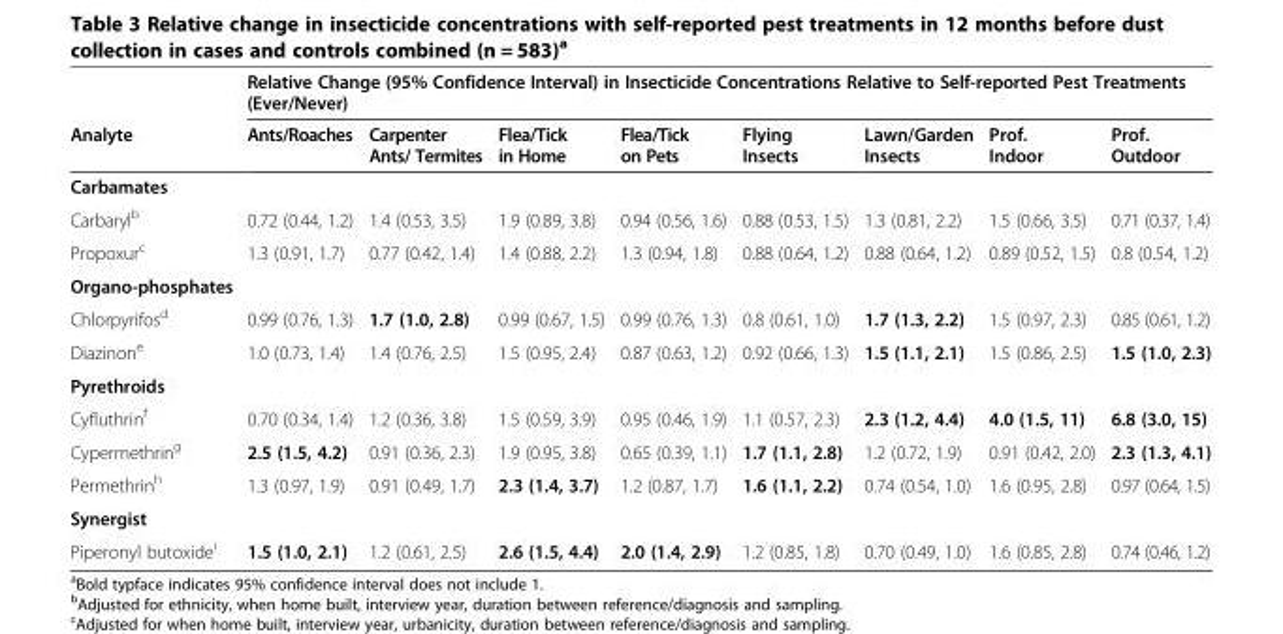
<table><thead><tr><td rowspan="2">Analyte</td><td colspan="8">Relative Change (95% Confidence Interval) in Insecticide Concentrations Relative to Self-reported Pest Treatments (Ever/Never)</td></tr><tr><td>Ants/Roaches</td><td>Carpenter Ants/ Termites</td><td>Flea/Tick in Home</td><td>Flea/Tick on Pets</td><td>Flying Insects</td><td>Lawn/Garden Insects</td><td>Prof. Indoor</td><td>Prof. Outdoor</td></tr></thead><tbody><tr><td colspan="9">Carbamates</td></tr><tr><td>Carbaryl<sup>b</sup></td><td>0.72 (0.44, 1.2)</td><td>1.4 (0.53, 3.5)</td><td>1.9 (0.89, 3.8)</td><td>0.94 (0.56, 1.6)</td><td>0.88 (0.53, 1.5)</td><td>1.3 (0.81, 2.2)</td><td>1.5 (0.66, 3.5)</td><td>0.71 (0.37, 1.4)</td></tr><tr><td>Propoxur<sup>c</sup></td><td>1.3 (0.91, 1.7)</td><td>0.77 (0.42, 1.4)</td><td>1.4 (0.88, 2.2)</td><td>1.3 (0.94, 1.8)</td><td>0.88 (0.64, 1.2)</td><td>0.88 (0.64, 1.2)</td><td>0.89 (0.52, 1.5)</td><td>0.8 (0.54, 1.2)</td></tr><tr><td colspan="9">Organo-phosphates</td></tr><tr><td>Chlorpyrifos<sup>d</sup></td><td>0.99 (0.76, 1.3)</td><td>1.7 (1.0, 2.8)</td><td>0.99 (0.67, 1.5)</td><td>0.99 (0.76, 1.3)</td><td>0.8 (0.61, 1.0)</td><td>1.7 (1.3, 2.2)</td><td>1.5 (0.97, 2.3)</td><td>0.85 (0.61, 1.2)</td></tr><tr><td>Diazinon<sup>e</sup></td><td>1.0 (0.73, 1.4)</td><td>1.4 (0.76, 2.5)</td><td>1.5 (0.95, 2.4)</td><td>0.87 (0.63, 1.2)</td><td>0.92 (0.66, 1.3)</td><td>1.5 (1.1, 2.1)</td><td>1.5 (0.86, 2.5)</td><td>1.5 (1.0, 2.3)</td></tr><tr><td colspan="9">Pyrethroids</td></tr><tr><td>Cyfluthrin<sup>f</sup></td><td>0.70 (0.34, 1.4)</td><td>1.2 (0.36, 3.8)</td><td>1.5 (0.59, 3.9)</td><td>0.95 (0.46, 1.9)</td><td>1.1 (0.57, 2.3)</td><td>2.3 (1.2, 4.4)</td><td>4.0 (1.5, 11)</td><td>6.8 (3.0, 15)</td></tr><tr><td>Cypermethrin<sup>g</sup></td><td>2.5 (1.5, 4.2)</td><td>0.91 (0.36, 2.3)</td><td>1.9 (0.95, 3.8)</td><td>0.65 (0.39, 1.1)</td><td>1.7 (1.1, 2.8)</td><td>1.2 (0.72, 1.9)</td><td>0.91 (0.42, 2.0)</td><td>2.3 (1.3, 4.1)</td></tr><tr><td>Permethrin<sup>h</sup></td><td>1.3 (0.97, 1.9)</td><td>0.91 (0.49, 1.7)</td><td>2.3 (1.4, 3.7)</td><td>1.2 (0.87, 1.7)</td><td>1.6 (1.1, 2.2)</td><td>0.74 (0.54, 1.0)</td><td>1.6 (0.95, 2.8)</td><td>0.97 (0.64, 1.5)</td></tr><tr><td colspan="9">Synergist</td></tr><tr><td>Piperonyl butoxide<sup>i</sup></td><td>1.5 (1.0, 2.1)</td><td>1.2 (0.61, 2.5)</td><td>2.6 (1.5, 4.4)</td><td>2.0 (1.4, 2.9)</td><td>1.2 (0.85, 1.8)</td><td>0.70 (0.49, 1.0)</td><td>1.6 (0.85, 2.8)</td><td>0.74 (0.46, 1.2)</td></tr></tbody></table>